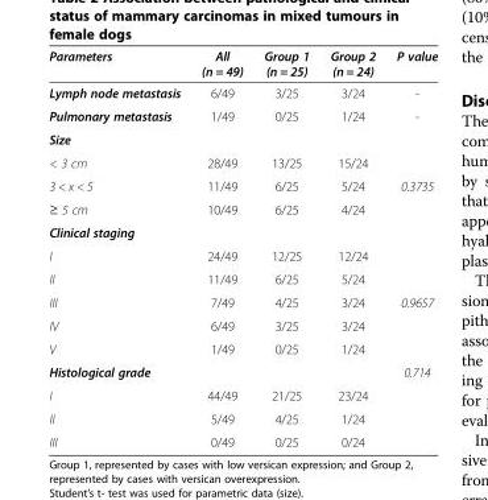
<table><thead><tr><td>Parameters</td><td>All (n = 49)</td><td>Group 1 (n = 25)</td><td>Group 2 (n = 24)</td><td>P value</td></tr></thead><tbody><tr><td>Lymph node metastasis</td><td>6/49</td><td>3/25</td><td>3/24</td><td>-</td></tr><tr><td>Pulmonary metastasis</td><td>1/49</td><td>0/25</td><td>1/24</td><td>-</td></tr><tr><td colspan="5">Size</td></tr><tr><td>&lt; 3 cm</td><td>28/49</td><td>13/25</td><td>15/24</td><td></td></tr><tr><td>3 &lt; x &lt; 5</td><td>11/49</td><td>6/25</td><td>5/24</td><td>0.3735</td></tr><tr><td>≥ 5 cm</td><td>10/49</td><td>6/25</td><td>4/24</td><td></td></tr><tr><td colspan="5">Clinical staging</td></tr><tr><td>I</td><td>24/49</td><td>12/25</td><td>12/24</td><td></td></tr><tr><td>II</td><td>11/49</td><td>6/25</td><td>5/24</td><td></td></tr><tr><td>III</td><td>7/49</td><td>4/25</td><td>3/24</td><td>0.9657</td></tr><tr><td>IV</td><td>6/49</td><td>3/25</td><td>3/24</td><td></td></tr><tr><td>V</td><td>1/49</td><td>0/25</td><td>1/24</td><td></td></tr><tr><td>Histological grade</td><td></td><td></td><td></td><td>0.714</td></tr><tr><td>I</td><td>44/49</td><td>21/25</td><td>23/24</td><td></td></tr><tr><td>II</td><td>5/49</td><td>4/25</td><td>1/24</td><td></td></tr><tr><td>III</td><td>0/49</td><td>0/25</td><td>0/24</td><td></td></tr></tbody></table>